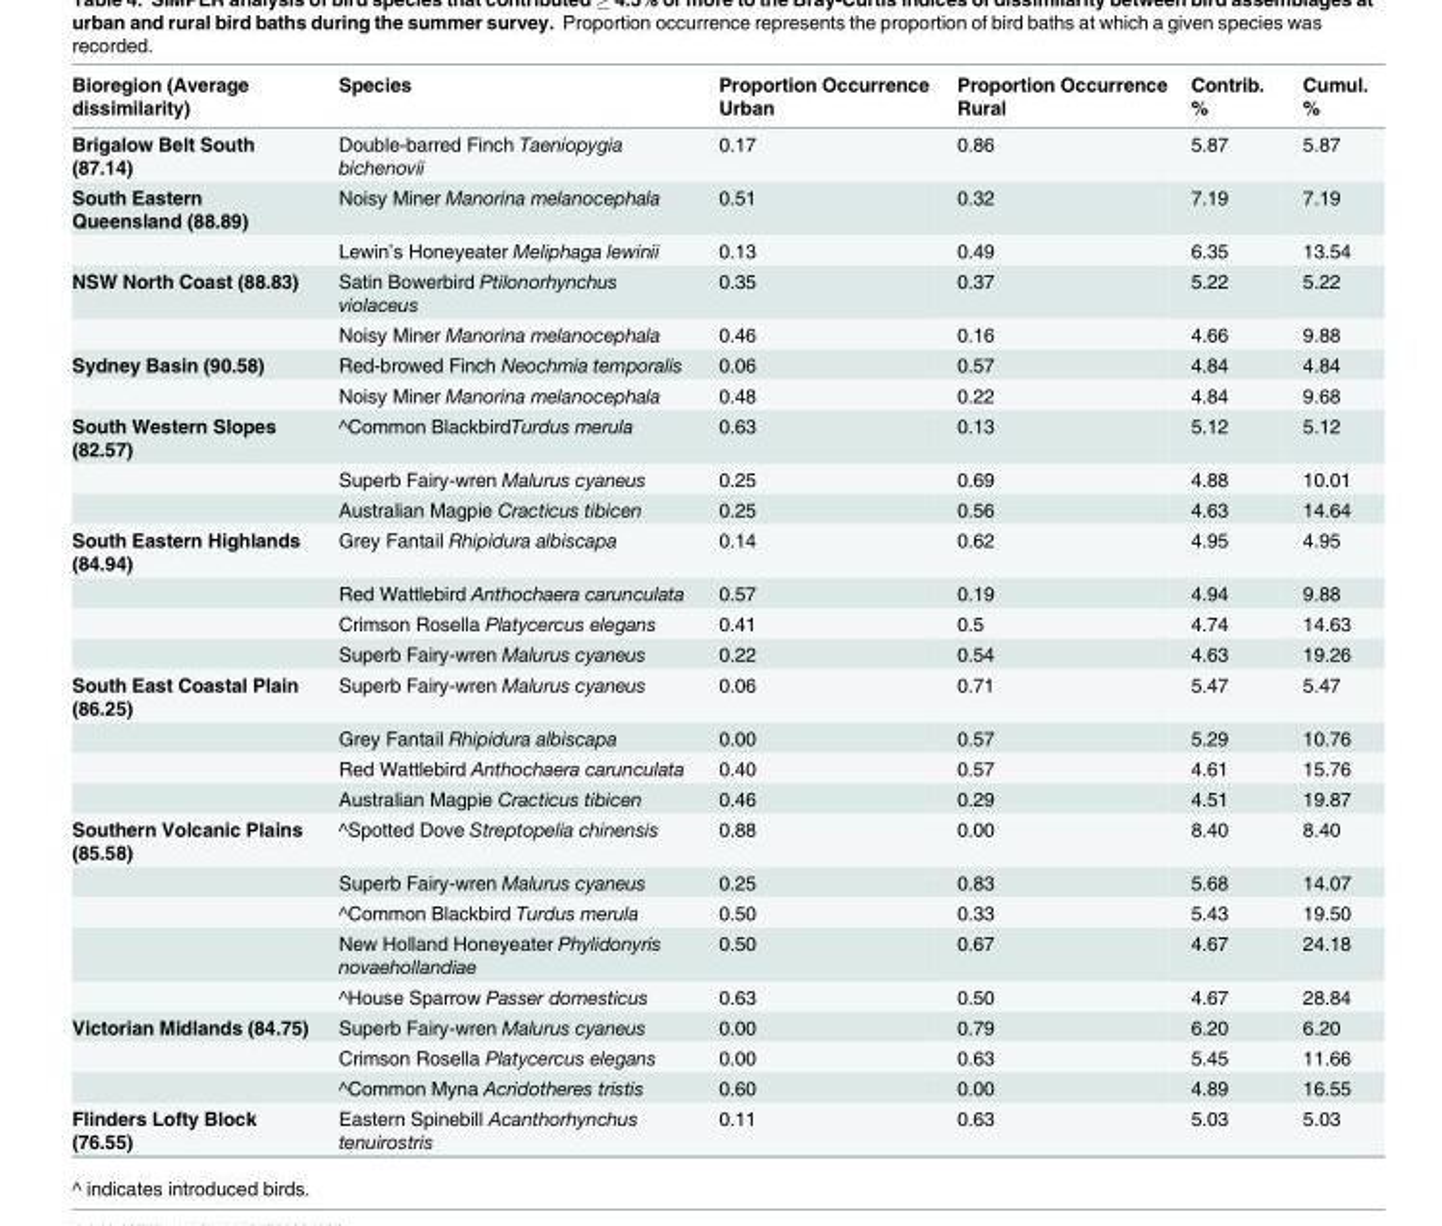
<table><thead><tr><td>Bioregion (Average dissimilarity)</td><td>Species</td><td>Proportion Occurrence Urban</td><td>Proportion Occurrence Rural</td><td>Contrib. %</td><td>Cumul. %</td></tr></thead><tbody><tr><td>Brigalow Belt South (87.14)</td><td>Double-barred Finch Taeniopygia bichenovii</td><td>0.17</td><td>0.86</td><td>5.87</td><td>5.87</td></tr><tr><td rowspan="2">South Eastern Queensland (88.89)</td><td>Noisy Miner Manorina melanocephala</td><td>0.51</td><td>0.32</td><td>7.19</td><td>7.19</td></tr><tr><td>Lewin’s Honeyeater Meliphaga lewinii</td><td>0.13</td><td>0.49</td><td>6.35</td><td>13.54</td></tr><tr><td rowspan="2">NSW North Coast (88.83)</td><td>Satin Bowerbird Ptilonorhynchus violaceus</td><td>0.35</td><td>0.37</td><td>5.22</td><td>5.22</td></tr><tr><td>Noisy Miner Manorina melanocephala</td><td>0.46</td><td>0.16</td><td>4.66</td><td>9.88</td></tr><tr><td rowspan="2">Sydney Basin (90.58)</td><td>Red-browed Finch Neochmia temporalis</td><td>0.06</td><td>0.57</td><td>4.84</td><td>4.84</td></tr><tr><td>Noisy Miner Manorina melanocephala</td><td>0.48</td><td>0.22</td><td>4.84</td><td>9.68</td></tr><tr><td rowspan="3">South Western Slopes (82.57)</td><td>^Common BlackbirdTurdus merula</td><td>0.63</td><td>0.13</td><td>5.12</td><td>5.12</td></tr><tr><td>Superb Fairy-wren Malurus cyaneus</td><td>0.25</td><td>0.69</td><td>4.88</td><td>10.01</td></tr><tr><td>Australian Magpie Cracticus tibicen</td><td>0.25</td><td>0.56</td><td>4.63</td><td>14.64</td></tr><tr><td rowspan="4">South Eastern Highlands (84.94)</td><td>Grey Fantail Rhipidura albiscapa</td><td>0.14</td><td>0.62</td><td>4.95</td><td>4.95</td></tr><tr><td>Red Wattlebird Anthochaera carunculata</td><td>0.57</td><td>0.19</td><td>4.94</td><td>9.88</td></tr><tr><td>Crimson Rosella Platycercus elegans</td><td>0.41</td><td>0.5</td><td>4.74</td><td>14.63</td></tr><tr><td>Superb Fairy-wren Malurus cyaneus</td><td>0.22</td><td>0.54</td><td>4.63</td><td>19.26</td></tr><tr><td rowspan="4">South East Coastal Plain (86.25)</td><td>Superb Fairy-wren Malurus cyaneus</td><td>0.06</td><td>0.71</td><td>5.47</td><td>5.47</td></tr><tr><td>Grey Fantail Rhipidura albiscapa</td><td>0.00</td><td>0.57</td><td>5.29</td><td>10.76</td></tr><tr><td>Red Wattlebird Anthochaera carunculata</td><td>0.40</td><td>0.57</td><td>4.61</td><td>15.76</td></tr><tr><td>Australian Magpie Cracticus tibicen</td><td>0.46</td><td>0.29</td><td>4.51</td><td>19.87</td></tr><tr><td rowspan="5">Southern Volcanic Plains (85.58)</td><td>^Spotted Dove Streptopelia chinensis</td><td>0.88</td><td>0.00</td><td>8.40</td><td>8.40</td></tr><tr><td>Superb Fairy-wren Malurus cyaneus</td><td>0.25</td><td>0.83</td><td>5.68</td><td>14.07</td></tr><tr><td>^Common Blackbird Turdus merula</td><td>0.50</td><td>0.33</td><td>5.43</td><td>19.50</td></tr><tr><td>New Holland Honeyeater Phylidonyris novaehollandiae</td><td>0.50</td><td>0.67</td><td>4.67</td><td>24.18</td></tr><tr><td>^House Sparrow Passer domesticus</td><td>0.63</td><td>0.50</td><td>4.67</td><td>28.84</td></tr><tr><td rowspan="3">Victorian Midlands (84.75)</td><td>Superb Fairy-wren Malurus cyaneus</td><td>0.00</td><td>0.79</td><td>6.20</td><td>6.20</td></tr><tr><td>Crimson Rosella Platycercus elegans</td><td>0.00</td><td>0.63</td><td>5.45</td><td>11.66</td></tr><tr><td>^Common Myna Acridotheres tristis</td><td>0.60</td><td>0.00</td><td>4.89</td><td>16.55</td></tr><tr><td>Flinders Lofty Block (76.55)</td><td>Eastern Spinebill Acanthorhynchus tenuirostris</td><td>0.11</td><td>0.63</td><td>5.03</td><td>5.03</td></tr></tbody></table>